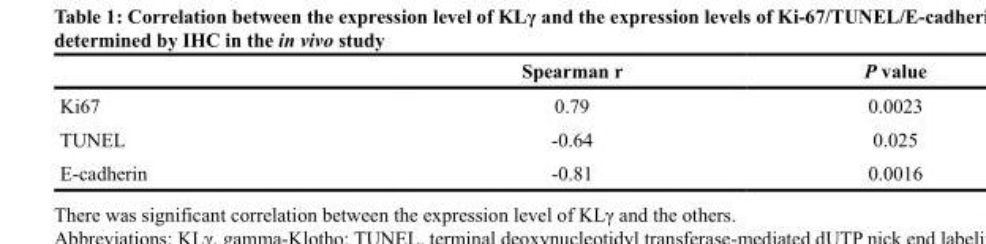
<table><thead><tr><td></td><td>Spearman r</td><td>P value</td></tr></thead><tbody><tr><td>Ki67</td><td>0.79</td><td>0.0023</td></tr><tr><td>TUNEL</td><td>-0.64</td><td>0.025</td></tr><tr><td>E-cadherin</td><td>-0.81</td><td>0.0016</td></tr></tbody></table>